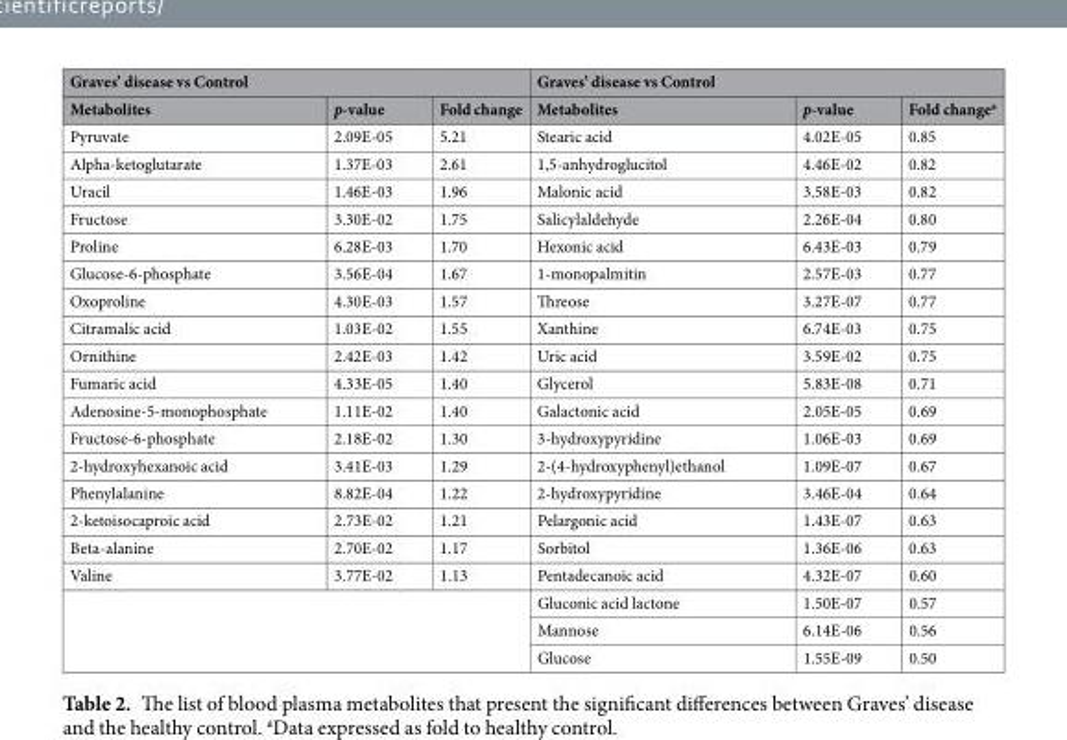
<table><thead><tr><td colspan="3">Graves’ disease vs Control</td><td colspan="3">Graves’ disease vs Control</td></tr><tr><td>Metabolites</td><td>p-value</td><td>Fold change</td><td>Metabolites</td><td>p-value</td><td>Fold change<sup>a</sup></td></tr></thead><tbody><tr><td>Pyruvate</td><td>2.09E-05</td><td>5.21</td><td>Stearic acid</td><td>4.02E-05</td><td>0.85</td></tr><tr><td>Alpha-ketoglutarate</td><td>1.37E-03</td><td>2.61</td><td>1,5-anhydroglucitol</td><td>4.46E-02</td><td>0.82</td></tr><tr><td>Uracil</td><td>1.46E-03</td><td>1.96</td><td>Malonic acid</td><td>3.58E-03</td><td>0.82</td></tr><tr><td>Fructose</td><td>3.30E-02</td><td>1.75</td><td>Salicylaldehyde</td><td>2.26E-04</td><td>0.80</td></tr><tr><td>Proline</td><td>6.28E-03</td><td>1.70</td><td>Hexonic acid</td><td>6.43E-03</td><td>0.79</td></tr><tr><td>Glucose-6-phosphate</td><td>3.56E-04</td><td>1.67</td><td>1-monopalmitin</td><td>2.57E-03</td><td>0.77</td></tr><tr><td>Oxoproline</td><td>4.30E-03</td><td>1.57</td><td>Threose</td><td>3.27E-07</td><td>0.77</td></tr><tr><td>Citramalic acid</td><td>1.03E-02</td><td>1.55</td><td>Xanthine</td><td>6.74E-03</td><td>0.75</td></tr><tr><td>Ornithine</td><td>2.42E-03</td><td>1.42</td><td>Uric acid</td><td>3.59E-02</td><td>0.75</td></tr><tr><td>Fumaric acid</td><td>4.33E-05</td><td>1.40</td><td>Glycerol</td><td>5.83E-08</td><td>0.71</td></tr><tr><td>Adenosine-5-monophosphate</td><td>1.11E-02</td><td>1.40</td><td>Galactonic acid</td><td>2.05E-05</td><td>0.69</td></tr><tr><td>Fructose-6-phosphate</td><td>2.18E-02</td><td>1.30</td><td>3-hydroxypyridine</td><td>1.06E-03</td><td>0.69</td></tr><tr><td>2-hydroxyhexanoic acid</td><td>3.41E-03</td><td>1.29</td><td>2-(4-hydroxyphenyl)ethanol</td><td>1.09E-07</td><td>0.67</td></tr><tr><td>Phenylalanine</td><td>8.82E-04</td><td>1.22</td><td>2-hydroxypyridine</td><td>3.46E-04</td><td>0.64</td></tr><tr><td>2-ketoisocaproic acid</td><td>2.73E-02</td><td>1.21</td><td>Pelargonic acid</td><td>1.43E-07</td><td>0.63</td></tr><tr><td>Beta-alanine</td><td>2.70E-02</td><td>1.17</td><td>Sorbitol</td><td>1.36E-06</td><td>0.63</td></tr><tr><td>Valine</td><td>3.77E-02</td><td>1.13</td><td>Pentadecanoic acid</td><td>4.32E-07</td><td>0.60</td></tr><tr><td rowspan="3" colspan="3"></td><td>Gluconic acid lactone</td><td>1.50E-07</td><td>0.57</td></tr><tr><td>Mannose</td><td>6.14E-06</td><td>0.56</td></tr><tr><td>Glucose</td><td>1.55E-09</td><td>0.50</td></tr></tbody></table>